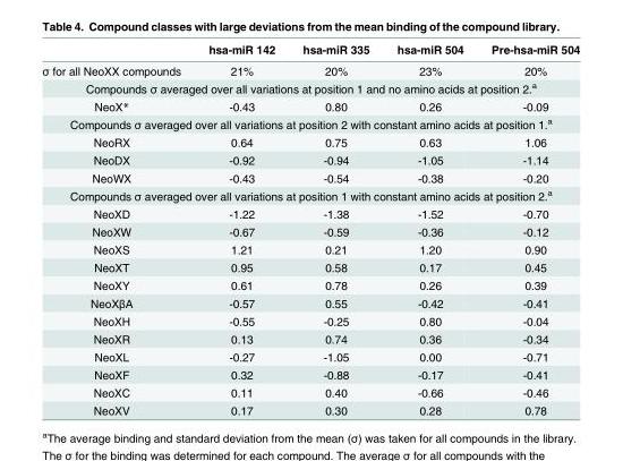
<table><thead><tr><td></td><td>hsa-miR 142</td><td>hsa-miR 335</td><td>hsa-miR 504</td><td>Pre-hsa-miR 504</td></tr></thead><tbody><tr><td>σ for all NeoXX compounds</td><td>21%</td><td>20%</td><td>23%</td><td>20%</td></tr><tr><td colspan="5">Compounds σ averaged over all variations at position 1 and no amino acids at position 2.<sup>a</sup></td></tr><tr><td>NeoX*</td><td>-0.43</td><td>0.80</td><td>0.26</td><td>-0.09</td></tr><tr><td colspan="5">Compounds σ averaged over all variations at position 2 with constant amino acids at position 1.<sup>a</sup></td></tr><tr><td>NeoRX</td><td>0.64</td><td>0.75</td><td>0.63</td><td>1.06</td></tr><tr><td>NeoDX</td><td>-0.92</td><td>-0.94</td><td>-1.05</td><td>-1.14</td></tr><tr><td>NeoWX</td><td>-0.43</td><td>-0.54</td><td>-0.38</td><td>-0.20</td></tr><tr><td colspan="5">Compounds σ averaged over all variations at position 1 with constant amino acids at position 2.<sup>a</sup></td></tr><tr><td>NeoXD</td><td>-1.22</td><td>-1.38</td><td>-1.52</td><td>-0.70</td></tr><tr><td>NeoXW</td><td>-0.67</td><td>-0.59</td><td>-0.36</td><td>-0.12</td></tr><tr><td>NeoXS</td><td>1.21</td><td>0.21</td><td>1.20</td><td>0.90</td></tr><tr><td>NeoXT</td><td>0.95</td><td>0.58</td><td>0.17</td><td>0.45</td></tr><tr><td>NeoXY</td><td>0.61</td><td>0.78</td><td>0.26</td><td>0.39</td></tr><tr><td>NeoXβA</td><td>-0.57</td><td>0.55</td><td>-0.42</td><td>-0.41</td></tr><tr><td>NeoXH</td><td>-0.55</td><td>-0.25</td><td>0.80</td><td>-0.04</td></tr><tr><td>NeoXR</td><td>0.13</td><td>0.74</td><td>0.36</td><td>-0.34</td></tr><tr><td>NeoXL</td><td>-0.27</td><td>-1.05</td><td>0.00</td><td>-0.71</td></tr><tr><td>NeoXF</td><td>0.32</td><td>-0.88</td><td>-0.17</td><td>-0.41</td></tr><tr><td>NeoXC</td><td>0.11</td><td>0.40</td><td>-0.66</td><td>-0.46</td></tr><tr><td>NeoXV</td><td>0.17</td><td>0.30</td><td>0.28</td><td>0.78</td></tr></tbody></table>